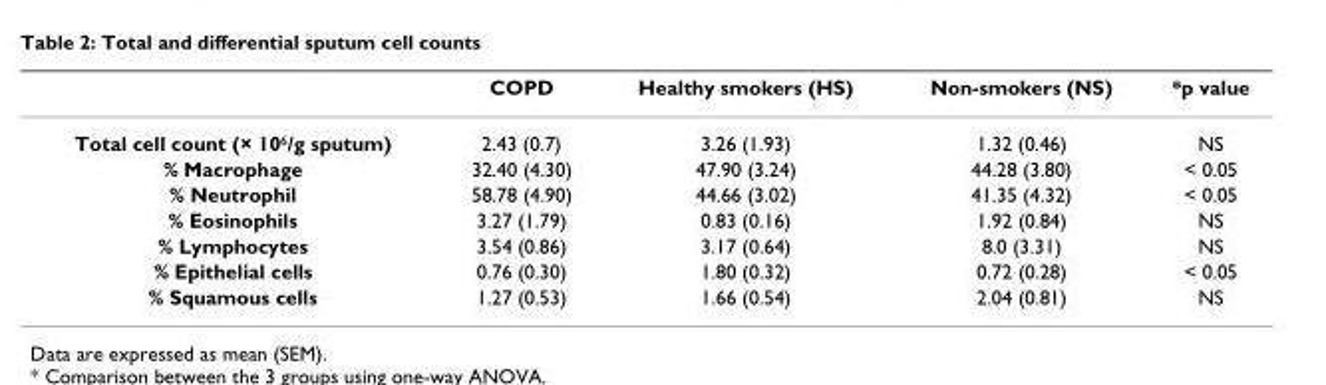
<table><thead><tr><td></td><td>COPD</td><td>Healthy smokers (HS)</td><td>Non-smokers (NS)</td><td>*p value</td></tr></thead><tbody><tr><td>Total cell count (× 10<sup>6</sup>/g sputum)</td><td>2.43 (0.7)</td><td>3.26 (1.93)</td><td>1.32 (0.46)</td><td>NS</td></tr><tr><td>% Macrophage</td><td>32.40 (4.30)</td><td>47.90 (3.24)</td><td>44.28 (3.80)</td><td>&lt; 0.05</td></tr><tr><td>% Neutrophil</td><td>58.78 (4.90)</td><td>44.66 (3.02)</td><td>41.35 (4.32)</td><td>&lt; 0.05</td></tr><tr><td>% Eosinophils</td><td>3.27 (1.79)</td><td>0.83 (0.16)</td><td>1.92 (0.84)</td><td>NS</td></tr><tr><td>% Lymphocytes</td><td>3.54 (0.86)</td><td>3.17 (0.64)</td><td>8.0 (3.31)</td><td>NS</td></tr><tr><td>% Epithelial cells</td><td>0.76 (0.30)</td><td>1.80 (0.32)</td><td>0.72 (0.28)</td><td>&lt; 0.05</td></tr><tr><td>% Squamous cells</td><td>1.27 (0.53)</td><td>1.66 (0.54)</td><td>2.04 (0.81)</td><td>NS</td></tr></tbody></table>